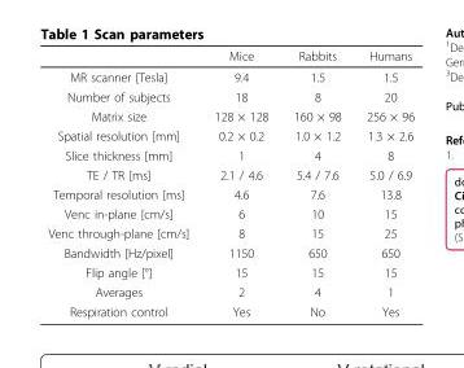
<table><thead><tr><td></td><td>Mice</td><td>Rabbits</td><td>Humans</td></tr></thead><tbody><tr><td>MR scanner [Tesla]</td><td>9.4</td><td>1.5</td><td>1.5</td></tr><tr><td>Number of subjects</td><td>18</td><td>8</td><td>20</td></tr><tr><td>Matrix size</td><td>128 × 128</td><td>160 × 98</td><td>256 × 96</td></tr><tr><td>Spatial resolution [mm]</td><td>0.2 × 0.2</td><td>1.0 × 1.2</td><td>1.3 × 2.6</td></tr><tr><td>Slice thickness [mm]</td><td>1</td><td>4</td><td>8</td></tr><tr><td>TE / TR [ms]</td><td>2.1 / 4.6</td><td>5.4 / 7.6</td><td>5.0 / 6.9</td></tr><tr><td>Temporal resolution [ms]</td><td>4.6</td><td>7.6</td><td>13.8</td></tr><tr><td>Venc in-plane [cm/s]</td><td>6</td><td>10</td><td>15</td></tr><tr><td>Venc through-plane [cm/s]</td><td>8</td><td>15</td><td>25</td></tr><tr><td>Bandwidth [Hz/pixel]</td><td>1150</td><td>650</td><td>650</td></tr><tr><td>Flip angle [°]</td><td>15</td><td>15</td><td>15</td></tr><tr><td>Averages</td><td>2</td><td>4</td><td>1</td></tr><tr><td>Respiration control</td><td>Yes</td><td>No</td><td>Yes</td></tr></tbody></table>